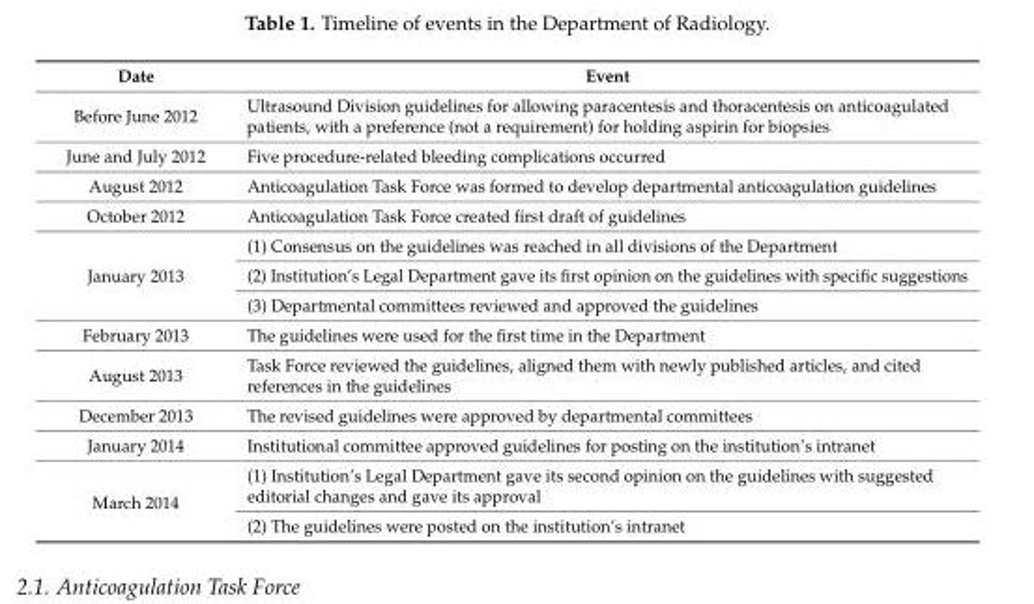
<table><thead><tr><td>Date</td><td>Event</td></tr></thead><tbody><tr><td>Before June 2012</td><td>Ultrasound Division guidelines for allowing paracentesis and thoracentesis on anticoagulated patients, with a preference (not a requirement) for holding aspirin for biopsies</td></tr><tr><td>June and July 2012</td><td>Five procedure-related bleeding complications occurred</td></tr><tr><td>August 2012</td><td>Anticoagulation Task Force was formed to develop departmental anticoagulation guidelines</td></tr><tr><td>October 2012</td><td>Anticoagulation Task Force created first draft of guidelines</td></tr><tr><td rowspan="3">January 2013</td><td>(1) Consensus on the guidelines was reached in all divisions of the Department</td></tr><tr><td>(2) Institution’s Legal Department gave its first opinion on the guidelines with specific suggestions</td></tr><tr><td>(3) Departmental committees reviewed and approved the guidelines</td></tr><tr><td>February 2013</td><td>The guidelines were used for the first time in the Department</td></tr><tr><td>August 2013</td><td>Task Force reviewed the guidelines, aligned them with newly published articles, and cited references in the guidelines</td></tr><tr><td>December 2013</td><td>The revised guidelines were approved by departmental committees</td></tr><tr><td>January 2014</td><td>Institutional committee approved guidelines for posting on the institution’s intranet</td></tr><tr><td rowspan="2">March 2014</td><td>(1) Institution’s Legal Department gave its second opinion on the guidelines with suggested editorial changes and gave its approval</td></tr><tr><td>(2) The guidelines were posted on the institution’s intranet</td></tr></tbody></table>